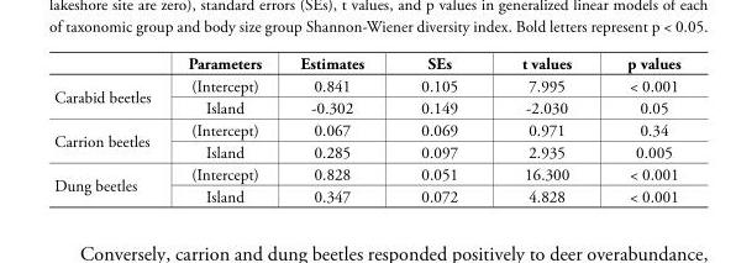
<table><thead><tr><td></td><td>Parameters</td><td>Estimates</td><td>SEs</td><td>t values</td><td>p values</td></tr></thead><tbody><tr><td rowspan="2">Carabid beetles</td><td>(Intercept)</td><td>0.841</td><td>0.105</td><td>7.995</td><td>&lt; 0.001</td></tr><tr><td>Island</td><td>-0.302</td><td>0.149</td><td>-2.030</td><td>0.05</td></tr><tr><td rowspan="2">Carrion beetles</td><td>(Intercept)</td><td>0.067</td><td>0.069</td><td>0.971</td><td>0.34</td></tr><tr><td>Island</td><td>0.285</td><td>0.097</td><td>2.935</td><td>0.005</td></tr><tr><td rowspan="2">Dung beetles</td><td>(Intercept)</td><td>0.828</td><td>0.051</td><td>16.300</td><td>&lt; 0.001</td></tr><tr><td>Island</td><td>0.347</td><td>0.072</td><td>4.828</td><td>&lt; 0.001</td></tr></tbody></table>